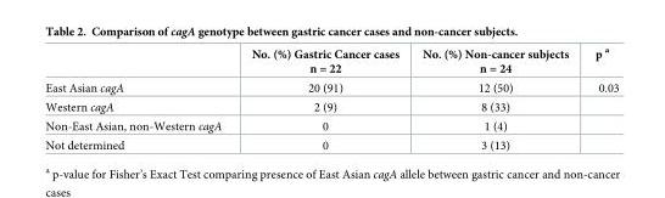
<table><thead><tr><td></td><td>No. (%) Gastric Cancer cases n = 22</td><td>No. (%) Non-cancer subjects n = 24</td><td>p <sup>a</sup></td></tr></thead><tbody><tr><td>East Asian cagA</td><td>20 (91)</td><td>12 (50)</td><td>0.03</td></tr><tr><td>Western cagA</td><td>2 (9)</td><td>8 (33)</td><td></td></tr><tr><td>Non-East Asian, non-Western cagA</td><td>0</td><td>1 (4)</td><td></td></tr><tr><td>Not determined</td><td>0</td><td>3 (13)</td><td></td></tr></tbody></table>